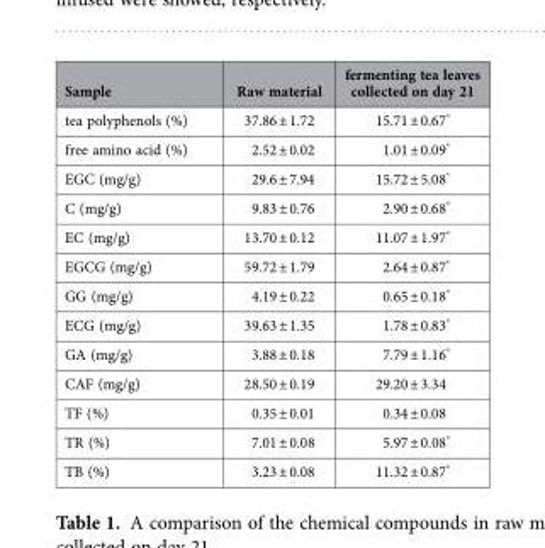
<table><thead><tr><td>Sample</td><td>Raw material</td><td>fermenting tea leaves collected on day 21</td></tr></thead><tbody><tr><td>tea polyphenols (%)</td><td>37.86 ± 1.72</td><td>15.71 ± 0.67*</td></tr><tr><td>free amino acid (%)</td><td>2.52 ± 0.02</td><td>1.01 ± 0.09*</td></tr><tr><td>EGC (mg/g)</td><td>29.6 ± 7.94</td><td>15.72 ± 5.08*</td></tr><tr><td>C (mg/g)</td><td>9.83 ± 0.76</td><td>2.90 ± 0.68*</td></tr><tr><td>EC (mg/g)</td><td>13.70 ± 0.12</td><td>11.07 ± 1.97*</td></tr><tr><td>EGCG (mg/g)</td><td>59.72 ± 1.79</td><td>2.64 ± 0.87*</td></tr><tr><td>GG (mg/g)</td><td>4.19 ± 0.22</td><td>0.65 ± 0.18*</td></tr><tr><td>ECG (mg/g)</td><td>39.63 ± 1.35</td><td>1.78 ± 0.83*</td></tr><tr><td>GA (mg/g)</td><td>3.88 ± 0.18</td><td>7.79 ± 1.16*</td></tr><tr><td>CAF (mg/g)</td><td>28.50 ± 0.19</td><td>29.20 ± 3.34</td></tr><tr><td>TF (%)</td><td>0.35 ± 0.01</td><td>0.34 ± 0.08</td></tr><tr><td>TR (%)</td><td>7.01 ± 0.08</td><td>5.97 ± 0.08*</td></tr><tr><td>TB (%)</td><td>3.23 ± 0.08</td><td>11.32 ± 0.87*</td></tr></tbody></table>